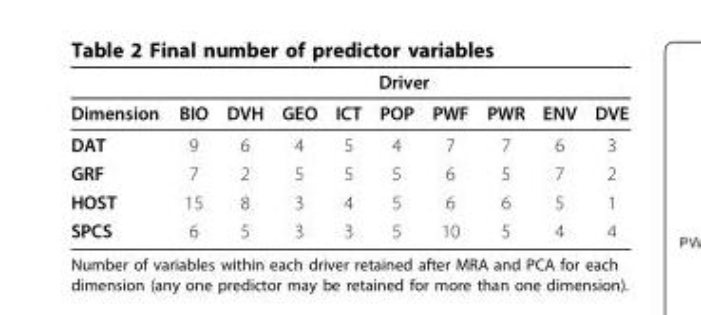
<table><thead><tr><td rowspan="2">Dimension</td><td colspan="9">Driver</td></tr><tr><td>BIO</td><td>DVH</td><td>GEO</td><td>ICT</td><td>POP</td><td>PWF</td><td>PWR</td><td>ENV</td><td>DVE</td></tr></thead><tbody><tr><td>DAT</td><td>9</td><td>6</td><td>4</td><td>5</td><td>4</td><td>7</td><td>7</td><td>6</td><td>3</td></tr><tr><td>GRF</td><td>7</td><td>2</td><td>5</td><td>5</td><td>5</td><td>6</td><td>5</td><td>7</td><td>2</td></tr><tr><td>HOST</td><td>15</td><td>8</td><td>3</td><td>4</td><td>5</td><td>6</td><td>6</td><td>5</td><td>1</td></tr><tr><td>SPCS</td><td>6</td><td>5</td><td>3</td><td>3</td><td>5</td><td>10</td><td>5</td><td>4</td><td>4</td></tr></tbody></table>